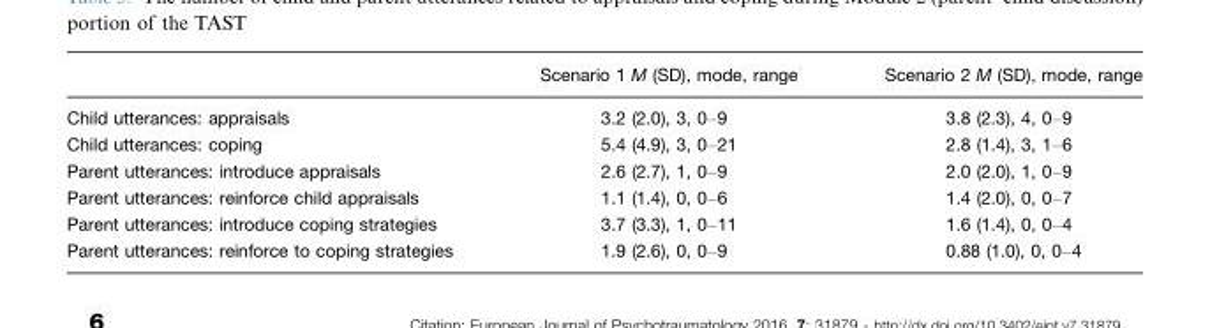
<table><thead><tr><td></td><td>Scenario 1 M (SD), mode, range</td><td>Scenario 2 M (SD), mode, range</td></tr></thead><tbody><tr><td>Child utterances: appraisals</td><td>3.2 (2.0), 3, 0–9</td><td>3.8 (2.3), 4, 0–9</td></tr><tr><td>Child utterances: coping</td><td>5.4 (4.9), 3, 0–21</td><td>2.8 (1.4), 3, 1–6</td></tr><tr><td>Parent utterances: introduce appraisals</td><td>2.6 (2.7), 1, 0–9</td><td>2.0 (2.0), 1, 0–9</td></tr><tr><td>Parent utterances: reinforce child appraisals</td><td>1.1 (1.4), 0, 0–6</td><td>1.4 (2.0), 0, 0–7</td></tr><tr><td>Parent utterances: introduce coping strategies</td><td>3.7 (3.3), 1, 0–11</td><td>1.6 (1.4), 0, 0–4</td></tr><tr><td>Parent utterances: reinforce to coping strategies</td><td>1.9 (2.6), 0, 0–9</td><td>0.88 (1.0), 0, 0–4</td></tr></tbody></table>